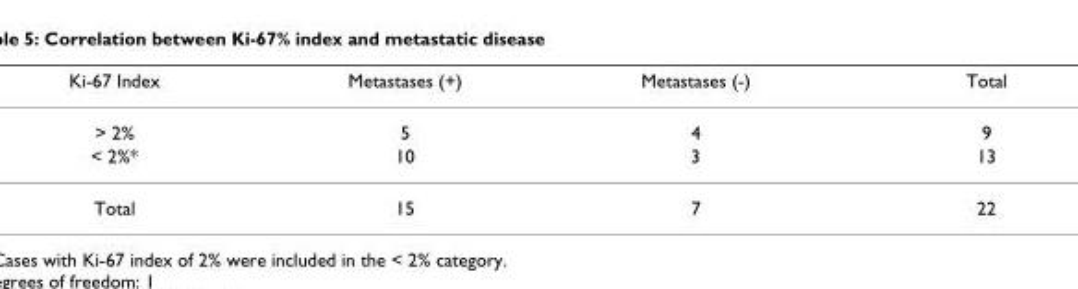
<table><thead><tr><td>Ki-67 Index</td><td>Metastases (+)</td><td>Metastases (-)</td><td>Total</td></tr></thead><tbody><tr><td>&gt; 2%</td><td>5</td><td>4</td><td>9</td></tr><tr><td>&lt; 2%*</td><td>10</td><td>3</td><td>13</td></tr><tr><td>Total</td><td>15</td><td>7</td><td>22</td></tr></tbody></table>